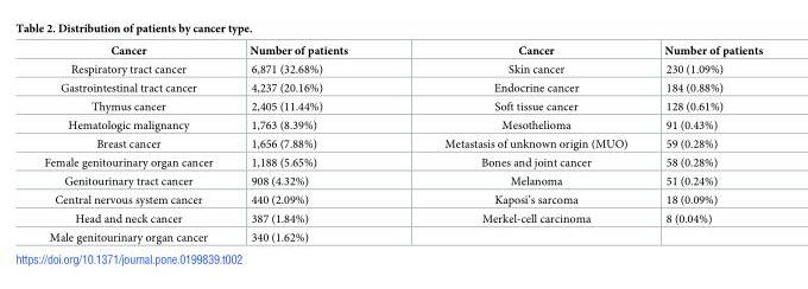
<table><thead><tr><td>Cancer</td><td>Number of patients</td><td>Cancer</td><td>Number of patients</td></tr></thead><tbody><tr><td>Respiratory tract cancer</td><td>6,871 (32.68%)</td><td>Skin cancer</td><td>230 (1.09%)</td></tr><tr><td>Gastrointestinal tract cancer</td><td>4,237 (20.16%)</td><td>Endocrine cancer</td><td>184 (0.88%)</td></tr><tr><td>Thymus cancer</td><td>2,405 (11.44%)</td><td>Soft tissue cancer</td><td>128 (0.61%)</td></tr><tr><td>Hematologic malignancy</td><td>1,763 (8.39%)</td><td>Mesothelioma</td><td>91 (0.43%)</td></tr><tr><td>Breast cancer</td><td>1,656 (7.88%)</td><td>Metastasis of unknown origin (MUO)</td><td>59 (0.28%)</td></tr><tr><td>Female genitourinary organ cancer</td><td>1,188 (5.65%)</td><td>Bones and joint cancer</td><td>58 (0.28%)</td></tr><tr><td>Genitourinary tract cancer</td><td>908 (4.32%)</td><td>Melanoma</td><td>51 (0.24%)</td></tr><tr><td>Central nervous system cancer</td><td>440 (2.09%)</td><td>Kaposi’s sarcoma</td><td>18 (0.09%)</td></tr><tr><td>Head and neck cancer</td><td>387 (1.84%)</td><td>Merkel-cell carcinoma</td><td>8 (0.04%)</td></tr><tr><td>Male genitourinary organ cancer</td><td>340 (1.62%)</td><td></td><td></td></tr></tbody></table>